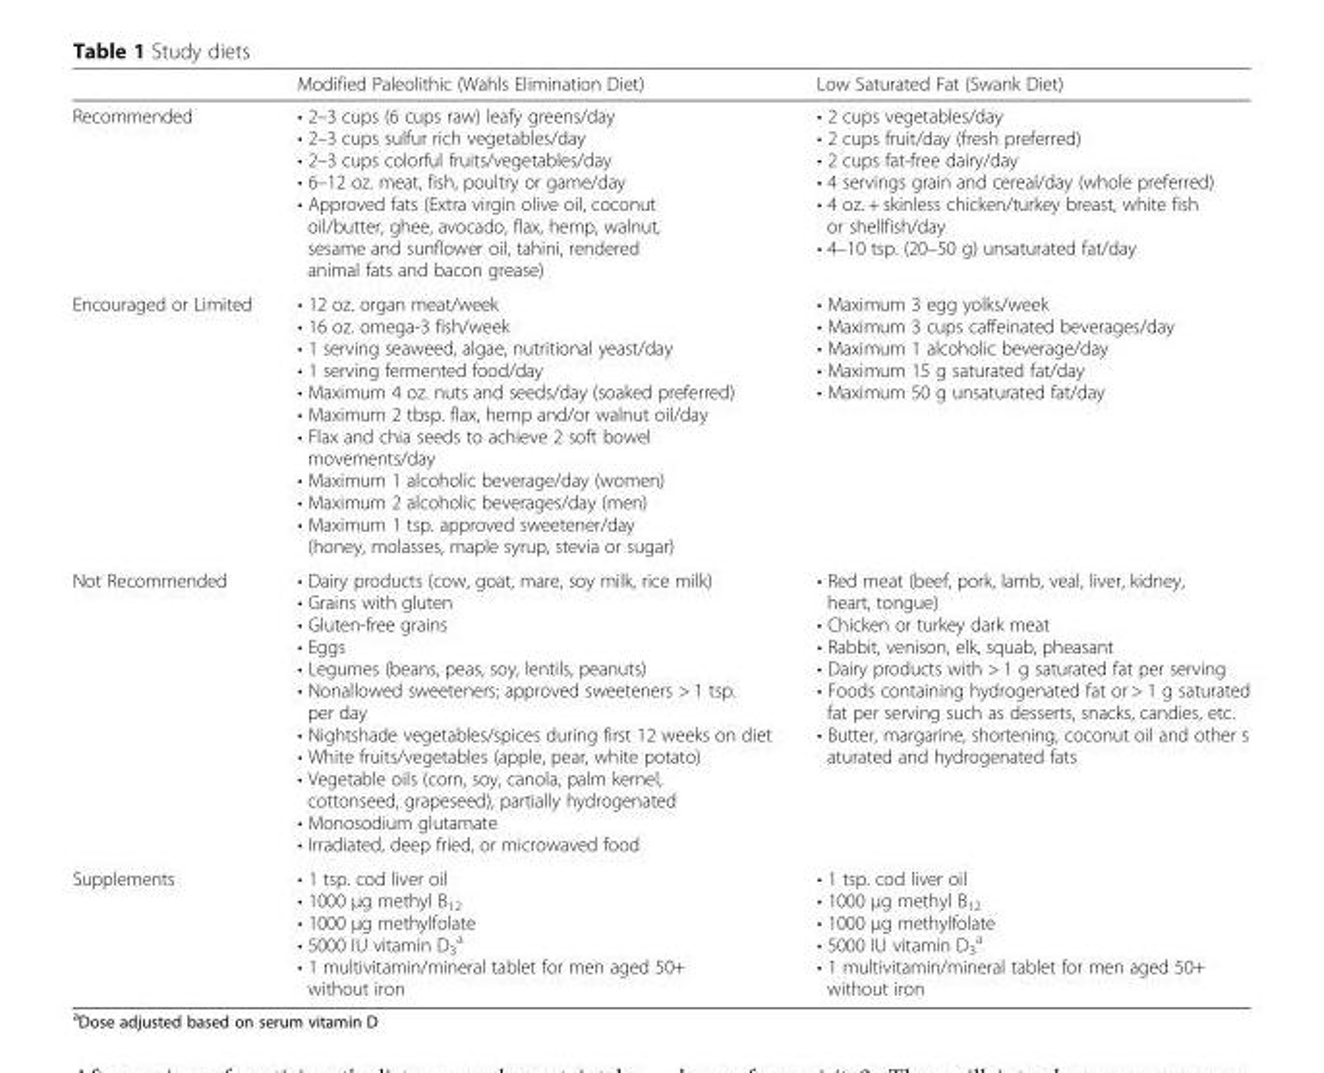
<table><thead><tr><td></td><td>Modified Paleolithic (Wahls Elimination Diet)</td><td>Low Saturated Fat (Swank Diet)</td></tr></thead><tbody><tr><td>Recommended</td><td>• 2–3 cups (6 cups raw) leafy greens/day • 2–3 cups sulfur rich vegetables/day • 2–3 cups colorful fruits/vegetables/day • 6–12 oz. meat, fish, poultry or game/day • Approved fats (Extra virgin olive oil, coconut oil/butter, ghee, avocado, flax, hemp, walnut, sesame and sunflower oil, tahini, rendered animal fats and bacon grease)</td><td>• 2 cups vegetables/day • 2 cups fruit/day (fresh preferred) • 2 cups fat-free dairy/day • 4 servings grain and cereal/day (whole preferred) • 4 oz. + skinless chicken/turkey breast, white fish or shellfish/day • 4–10 tsp. (20–50 g) unsaturated fat/day</td></tr><tr><td>Encouraged or Limited</td><td>• 12 oz. organ meat/week • 16 oz. omega-3 fish/week • 1 serving seaweed, algae, nutritional yeast/day • 1 serving fermented food/day • Maximum 4 oz. nuts and seeds/day (soaked preferred) • Maximum 2 tbsp. flax, hemp and/or walnut oil/day • Flax and chia seeds to achieve 2 soft bowel movements/day • Maximum 1 alcoholic beverage/day (women) • Maximum 2 alcoholic beverages/day (men) • Maximum 1 tsp. approved sweetener/day (honey, molasses, maple syrup, stevia or sugar)</td><td>• Maximum 3 egg yolks/week • Maximum 3 cups caffeinated beverages/day • Maximum 1 alcoholic beverage/day • Maximum 15 g saturated fat/day • Maximum 50 g unsaturated fat/day</td></tr><tr><td>Not Recommended</td><td>• Dairy products (cow, goat, mare, soy milk, rice milk) • Grains with gluten • Gluten-free grains • Eggs • Legumes (beans, peas, soy, lentils, peanuts) • Nonallowed sweeteners; approved sweeteners &gt; 1 tsp. per day • Nightshade vegetables/spices during first 12 weeks on diet • White fruits/vegetables (apple, pear, white potato) • Vegetable oils (corn, soy, canola, palm kernel, cottonseed, grapeseed), partially hydrogenated • Monosodium glutamate • Irradiated, deep fried, or microwaved food</td><td>• Red meat (beef, pork, lamb, veal, liver, kidney, heart, tongue) • Chicken or turkey dark meat • Rabbit, venison, elk, squab, pheasant • Dairy products with &gt; 1 g saturated fat per serving • Foods containing hydrogenated fat or &gt; 1 g saturated fat per serving such as desserts, snacks, candies, etc. • Butter, margarine, shortening, coconut oil and other s aturated and hydrogenated fats</td></tr><tr><td>Supplements</td><td>• 1 tsp. cod liver oil • 1000 μg methyl B<sub>12</sub> • 1000 μg methylfolate • 5000 IU vitamin D<sub>3</sub> <sup>a</sup> • 1 multivitamin/mineral tablet for men aged 50+ without iron</td><td>• 1 tsp. cod liver oil • 1000 μg methyl B<sub>12</sub> • 1000 μg methylfolate • 5000 IU vitamin D<sub>3</sub> <sup>a</sup> • 1 multivitamin/mineral tablet for men aged 50+ without iron</td></tr></tbody></table>